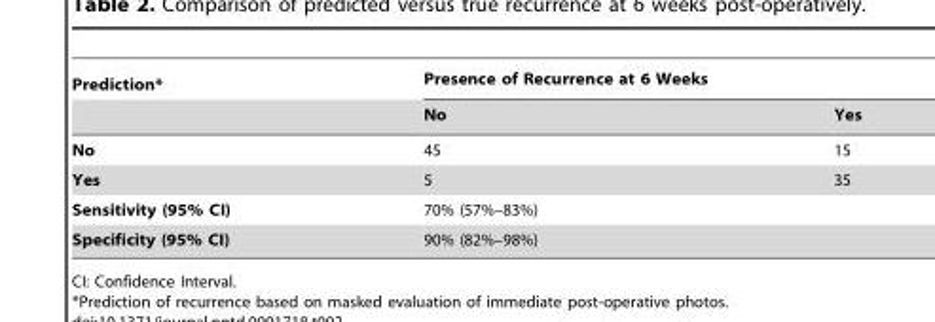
<table><thead><tr><td rowspan="2">Prediction*</td><td colspan="2">Presence of Recurrence at 6 Weeks</td></tr><tr><td>No</td><td>Yes</td></tr></thead><tbody><tr><td>No</td><td>45</td><td>15</td></tr><tr><td>Yes</td><td>5</td><td>35</td></tr><tr><td>Sensitivity (95% CI)</td><td colspan="2">70% (57%–83%)</td></tr><tr><td>Specificity (95% CI)</td><td colspan="2">90% (82%–98%)</td></tr></tbody></table>